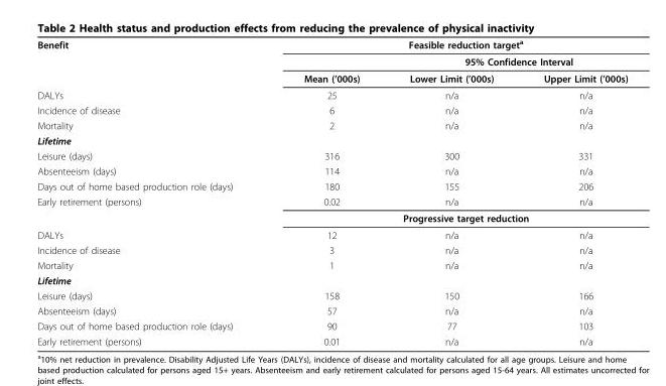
<table><tbody><tr><td rowspan="3">Benefit</td><td colspan="3">Feasible reduction target<sup>a</sup></td></tr><tr><td></td><td colspan="2">95% Confidence Interval</td></tr><tr><td>Mean (’000s)</td><td>Lower Limit (’000s)</td><td>Upper Limit (’000s)</td></tr><tr><td>DALYs</td><td>25</td><td>n/a</td><td>n/a</td></tr><tr><td>Incidence of disease</td><td>6</td><td>n/a</td><td>n/a</td></tr><tr><td>Mortality</td><td>2</td><td>n/a</td><td>n/a</td></tr><tr><td colspan="4">Lifetime</td></tr><tr><td>Leisure (days)</td><td>316</td><td>300</td><td>331</td></tr><tr><td>Absenteeism (days)</td><td>114</td><td>n/a</td><td>n/a</td></tr><tr><td>Days out of home based production role (days)</td><td>180</td><td>155</td><td>206</td></tr><tr><td rowspan="2">Early retirement (persons)</td><td>0.02</td><td>n/a</td><td>n/a</td></tr><tr><td colspan="3">Progressive target reduction</td></tr><tr><td>DALYs</td><td>12</td><td>n/a</td><td>n/a</td></tr><tr><td>Incidence of disease</td><td>3</td><td>n/a</td><td>n/a</td></tr><tr><td>Mortality</td><td>1</td><td>n/a</td><td>n/a</td></tr><tr><td colspan="4">Lifetime</td></tr><tr><td>Leisure (days)</td><td>158</td><td>150</td><td>166</td></tr><tr><td>Absenteeism (days)</td><td>57</td><td>n/a</td><td>n/a</td></tr><tr><td>Days out of home based production role (days)</td><td>90</td><td>77</td><td>103</td></tr><tr><td>Early retirement (persons)</td><td>0.01</td><td>n/a</td><td>n/a</td></tr></tbody></table>